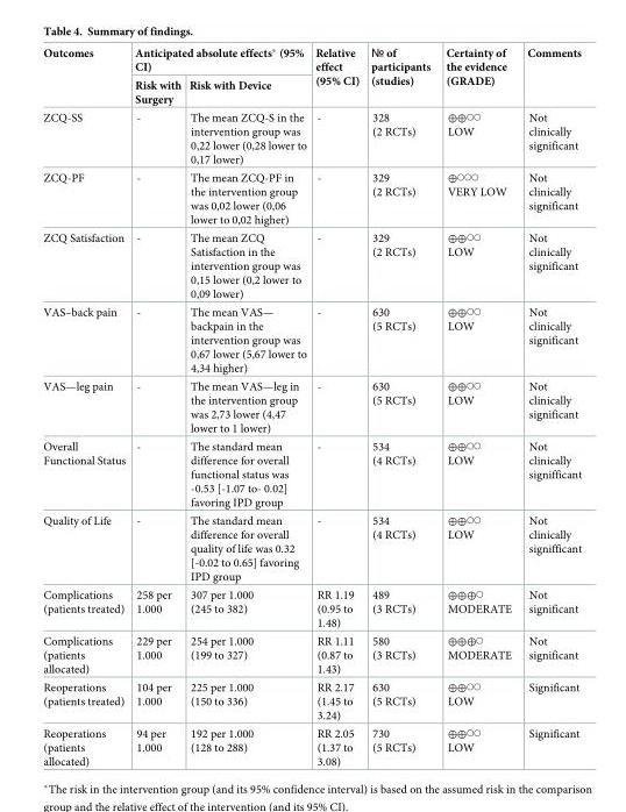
<table><thead><tr><td rowspan="2">Outcomes</td><td colspan="2">Anticipated absolute effects* (95% CI)</td><td rowspan="2">Relative effect (95% CI)</td><td rowspan="2">№ of participants (studies)</td><td rowspan="2">Certainty of the evidence (GRADE)</td><td rowspan="2">Comments</td></tr><tr><td>Risk with Surgery</td><td>Risk with Device</td></tr></thead><tbody><tr><td>ZCQ-SS</td><td>-</td><td>The mean ZCQ-S in the intervention group was 0,22 lower (0,28 lower to 0,17 lower)</td><td>-</td><td>328 (2 RCTs)</td><td>⊕⊕◯◯ LOW</td><td>Not clinically significant</td></tr><tr><td>ZCQ-PF</td><td>-</td><td>The mean ZCQ-PF in the intervention group was 0,02 lower (0,06 lower to 0,02 higher)</td><td>-</td><td>329 (2 RCTs)</td><td>⊕◯◯◯ VERY LOW</td><td>Not clinically significant</td></tr><tr><td>ZCQ Satisfaction</td><td>-</td><td>The mean ZCQ Satisfaction in the intervention group was 0,15 lower (0,2 lower to 0,09 lower)</td><td>-</td><td>329 (2 RCTs)</td><td>⊕⊕◯◯ LOW</td><td>Not clinically significant</td></tr><tr><td>VAS–back pain</td><td>-</td><td>The mean VAS— backpain in the intervention group was 0,67 lower (5,67 lower to 4,34 higher)</td><td>-</td><td>630 (5 RCTs)</td><td>⊕⊕◯◯ LOW</td><td>Not clinically significant</td></tr><tr><td>VAS—leg pain</td><td>-</td><td>The mean VAS—leg in the intervention group was 2,73 lower (4,47 lower to 1 lower)</td><td>-</td><td>630 (5 RCTs)</td><td>⊕⊕◯◯ LOW</td><td>Not clinically significant</td></tr><tr><td>Overall Functional Status</td><td>-</td><td>The standard mean difference for overall functional status was -0.53 [-1.07 to- 0.02] favoring IPD group</td><td>-</td><td>534 (4 RCTs)</td><td>⊕⊕◯◯ LOW</td><td>Not clinically signifficant</td></tr><tr><td>Quality of Life</td><td>-</td><td>The standard mean difference for overall quality of life was 0.32 [-0.02 to 0.65] favoring IPD group</td><td>-</td><td>534 (4 RCTs)</td><td>⊕⊕◯◯ LOW</td><td>Not clinically signifficant</td></tr><tr><td>Complications (patients treated)</td><td>258 per 1.000</td><td>307 per 1.000 (245 to 382)</td><td>RR 1.19 (0.95 to 1.48)</td><td>489 (3 RCTs)</td><td>⊕⊕⊕◯ MODERATE</td><td>Not significant</td></tr><tr><td>Complications (patients allocated)</td><td>229 per 1.000</td><td>254 per 1.000 (199 to 327)</td><td>RR 1.11 (0.87 to 1.43)</td><td>580 (3 RCTs)</td><td>⊕⊕⊕◯ MODERATE</td><td>Not significant</td></tr><tr><td>Reoperations (patients treated)</td><td>104 per 1.000</td><td>225 per 1.000 (150 to 336)</td><td>RR 2.17 (1.45 to 3.24)</td><td>630 (5 RCTs)</td><td>⊕⊕◯◯ LOW</td><td>Significant</td></tr><tr><td>Reoperations (patients allocated)</td><td>94 per 1.000</td><td>192 per 1.000 (128 to 288)</td><td>RR 2.05 (1.37 to 3.08)</td><td>730 (5 RCTs)</td><td>⊕⊕◯◯ LOW</td><td>Significant</td></tr></tbody></table>